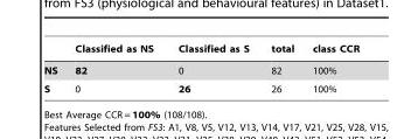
<table><thead><tr><td></td><td>Classified as NS</td><td>Classified as S</td><td>total</td><td>class CCR</td></tr></thead><tbody><tr><td>NS</td><td>82</td><td>0</td><td>82</td><td>100%</td></tr><tr><td>S</td><td>0</td><td>26</td><td>26</td><td>100%</td></tr></tbody></table>